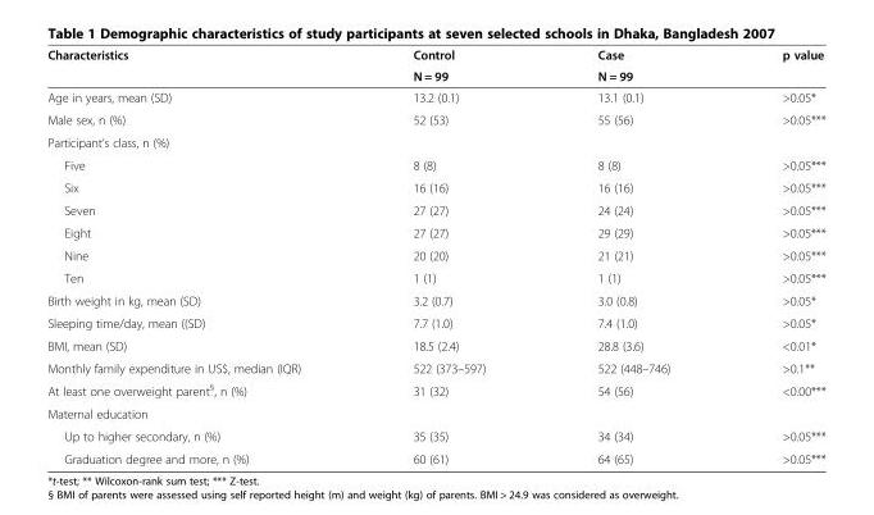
<table><thead><tr><td rowspan="2">Characteristics</td><td rowspan="2">Control N = 99</td><td rowspan="2">Case N = 99</td><td rowspan="2">p value</td></tr><tr></tr></thead><tbody><tr><td>Age in years, mean (SD)</td><td>13.2 (0.1)</td><td>13.1 (0.1)</td><td>&gt;0.05*</td></tr><tr><td>Male sex, n (%)</td><td>52 (53)</td><td>55 (56)</td><td>&gt;0.05***</td></tr><tr><td colspan="4">Participant’s class, n (%)</td></tr><tr><td>Five</td><td>8 (8)</td><td>8 (8)</td><td>&gt;0.05***</td></tr><tr><td>Six</td><td>16 (16)</td><td>16 (16)</td><td>&gt;0.05***</td></tr><tr><td>Seven</td><td>27 (27)</td><td>24 (24)</td><td>&gt;0.05***</td></tr><tr><td>Eight</td><td>27 (27)</td><td>29 (29)</td><td>&gt;0.05***</td></tr><tr><td>Nine</td><td>20 (20)</td><td>21 (21)</td><td>&gt;0.05***</td></tr><tr><td>Ten</td><td>1 (1)</td><td>1 (1)</td><td>&gt;0.05***</td></tr><tr><td>Birth weight in kg, mean (SD)</td><td>3.2 (0.7)</td><td>3.0 (0.8)</td><td>&gt;0.05*</td></tr><tr><td>Sleeping time/day, mean ((SD)</td><td>7.7 (1.0)</td><td>7.4 (1.0)</td><td>&gt;0.05*</td></tr><tr><td>BMI, mean (SD)</td><td>18.5 (2.4)</td><td>28.8 (3.6)</td><td>&lt;0.01*</td></tr><tr><td>Monthly family expenditure in US$, median (IQR)</td><td>522 (373–597)</td><td>522 (448–746)</td><td>&gt;0.1**</td></tr><tr><td>At least one overweight parent<sup>§</sup>, n (%)</td><td>31 (32)</td><td>54 (56)</td><td>&lt;0.00***</td></tr><tr><td colspan="4">Maternal education</td></tr><tr><td>Up to higher secondary, n (%)</td><td>35 (35)</td><td>34 (34)</td><td>&gt;0.05***</td></tr><tr><td>Graduation degree and more, n (%)</td><td>60 (61)</td><td>64 (65)</td><td>&gt;0.05***</td></tr></tbody></table>